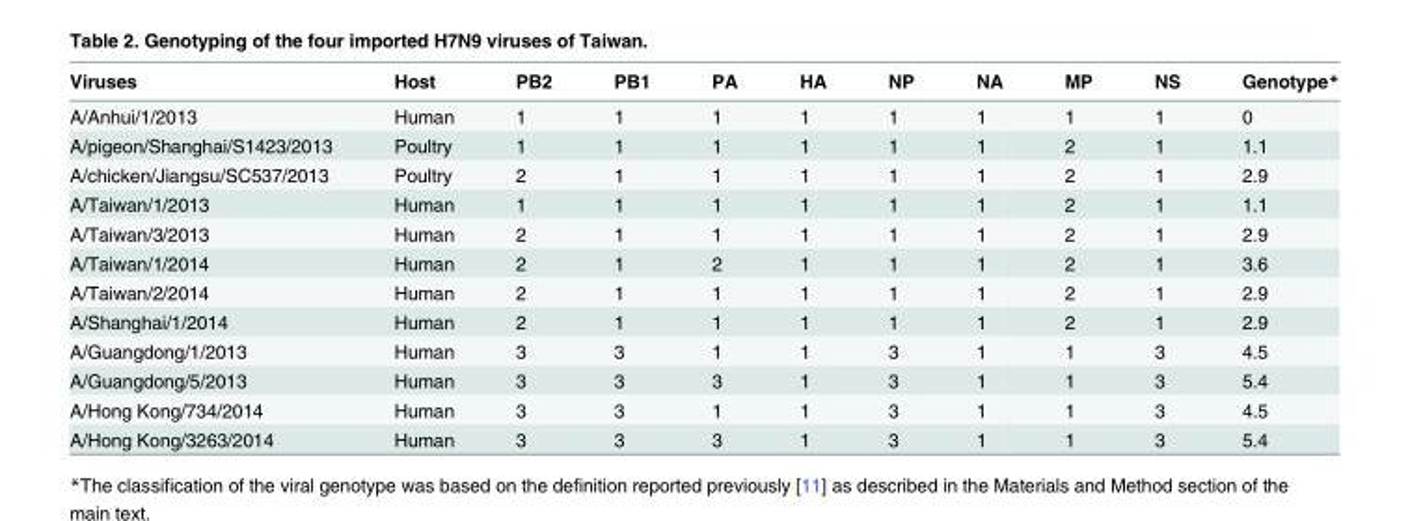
<table><thead><tr><td>Viruses</td><td>Host</td><td>PB2</td><td>PB1</td><td>PA</td><td>HA</td><td>NP</td><td>NA</td><td>MP</td><td>NS</td><td>Genotype*</td></tr></thead><tbody><tr><td>A/Anhui/1/2013</td><td>Human</td><td>1</td><td>1</td><td>1</td><td>1</td><td>1</td><td>1</td><td>1</td><td>1</td><td>0</td></tr><tr><td>A/pigeon/Shanghai/S1423/2013</td><td>Poultry</td><td>1</td><td>1</td><td>1</td><td>1</td><td>1</td><td>1</td><td>2</td><td>1</td><td>1.1</td></tr><tr><td>A/chicken/Jiangsu/SC537/2013</td><td>Poultry</td><td>2</td><td>1</td><td>1</td><td>1</td><td>1</td><td>1</td><td>2</td><td>1</td><td>2.9</td></tr><tr><td>A/Taiwan/1/2013</td><td>Human</td><td>1</td><td>1</td><td>1</td><td>1</td><td>1</td><td>1</td><td>2</td><td>1</td><td>1.1</td></tr><tr><td>A/Taiwan/3/2013</td><td>Human</td><td>2</td><td>1</td><td>1</td><td>1</td><td>1</td><td>1</td><td>2</td><td>1</td><td>2.9</td></tr><tr><td>A/Taiwan/1/2014</td><td>Human</td><td>2</td><td>1</td><td>2</td><td>1</td><td>1</td><td>1</td><td>2</td><td>1</td><td>3.6</td></tr><tr><td>A/Taiwan/2/2014</td><td>Human</td><td>2</td><td>1</td><td>1</td><td>1</td><td>1</td><td>1</td><td>2</td><td>1</td><td>2.9</td></tr><tr><td>A/Shanghai/1/2014</td><td>Human</td><td>2</td><td>1</td><td>1</td><td>1</td><td>1</td><td>1</td><td>2</td><td>1</td><td>2.9</td></tr><tr><td>A/Guangdong/1/2013</td><td>Human</td><td>3</td><td>3</td><td>1</td><td>1</td><td>3</td><td>1</td><td>1</td><td>3</td><td>4.5</td></tr><tr><td>A/Guangdong/5/2013</td><td>Human</td><td>3</td><td>3</td><td>3</td><td>1</td><td>3</td><td>1</td><td>1</td><td>3</td><td>5.4</td></tr><tr><td>A/Hong Kong/734/2014</td><td>Human</td><td>3</td><td>3</td><td>1</td><td>1</td><td>3</td><td>1</td><td>1</td><td>3</td><td>4.5</td></tr><tr><td>A/Hong Kong/3263/2014</td><td>Human</td><td>3</td><td>3</td><td>3</td><td>1</td><td>3</td><td>1</td><td>1</td><td>3</td><td>5.4</td></tr></tbody></table>